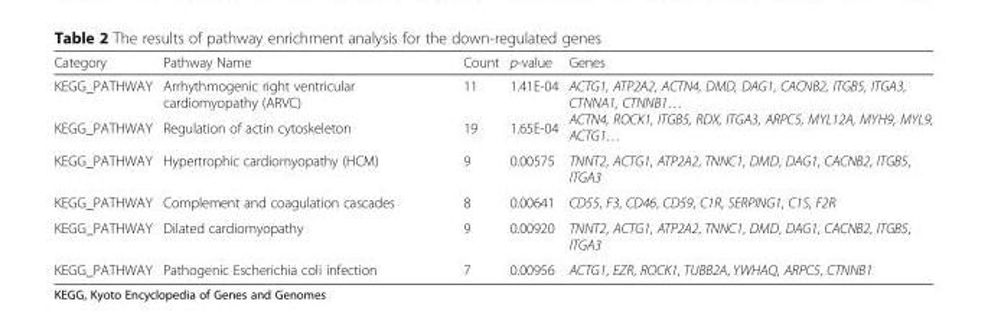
<table><thead><tr><td>Category</td><td>Pathway Name</td><td>Count</td><td>p-value</td><td>Genes</td></tr></thead><tbody><tr><td>KEGG_PATHWAY</td><td>Arrhythmogenic right ventricular cardiomyopathy (ARVC)</td><td>11</td><td>1.41E-04</td><td rowspan="2">ACTG1, ATP2A2, ACTN4, DMD, DAG1, CACNB2, ITGB5, ITGA3, CTNNA1, CTNNB1… ACTN4, ROCK1, ITGB5, RDX, ITGA3, ARPC5, MYL12A, MYH9, MYL9, ACTG1…</td></tr><tr><td>KEGG_PATHWAY</td><td>Regulation of actin cytoskeleton</td><td>19</td><td>1.65E-04</td></tr><tr><td>KEGG_PATHWAY</td><td>Hypertrophic cardiomyopathy (HCM)</td><td>9</td><td>0.00575</td><td>TNNT2, ACTG1, ATP2A2, TNNC1, DMD, DAG1, CACNB2, ITGB5, ITGA3</td></tr><tr><td>KEGG_PATHWAY</td><td>Complement and coagulation cascades</td><td>8</td><td>0.00641</td><td>CD55, F3, CD46, CD59, C1R, SERPING1, C1S, F2R</td></tr><tr><td>KEGG_PATHWAY</td><td>Dilated cardiomyopathy</td><td>9</td><td>0.00920</td><td>TNNT2, ACTG1, ATP2A2, TNNC1, DMD, DAG1, CACNB2, ITGB5, ITGA3</td></tr><tr><td>KEGG_PATHWAY</td><td>Pathogenic Escherichia coli infection</td><td>7</td><td>0.00956</td><td>ACTG1, EZR, ROCK1, TUBB2A, YWHAQ, ARPC5, CTNNB1</td></tr></tbody></table>